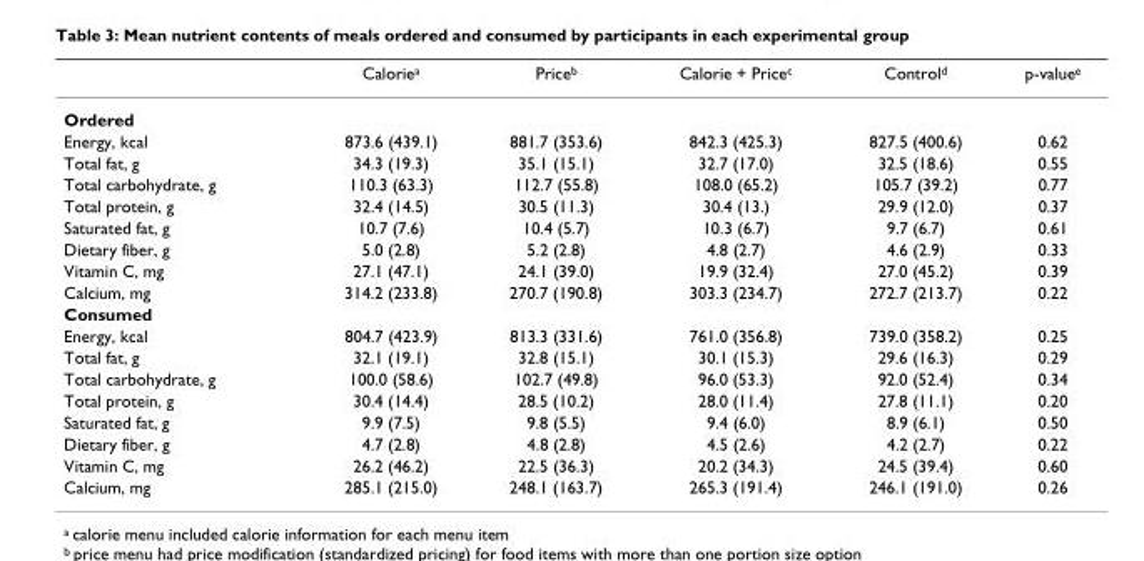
<table><thead><tr><td></td><td>Calorie<sup>a</sup></td><td>Price<sup>b</sup></td><td>Calorie + Price<sup>c</sup></td><td>Control<sup>d</sup></td><td>p-value<sup>e</sup></td></tr></thead><tbody><tr><td colspan="6">Ordered</td></tr><tr><td>Energy, kcal</td><td>873.6 (439.1)</td><td>881.7 (353.6)</td><td>842.3 (425.3)</td><td>827.5 (400.6)</td><td>0.62</td></tr><tr><td>Total fat, g</td><td>34.3 (19.3)</td><td>35.1 (15.1)</td><td>32.7 (17.0)</td><td>32.5 (18.6)</td><td>0.55</td></tr><tr><td>Total carbohydrate, g</td><td>110.3 (63.3)</td><td>112.7 (55.8)</td><td>108.0 (65.2)</td><td>105.7 (39.2)</td><td>0.77</td></tr><tr><td>Total protein, g</td><td>32.4 (14.5)</td><td>30.5 (11.3)</td><td>30.4 (13.)</td><td>29.9 (12.0)</td><td>0.37</td></tr><tr><td>Saturated fat, g</td><td>10.7 (7.6)</td><td>10.4 (5.7)</td><td>10.3 (6.7)</td><td>9.7 (6.7)</td><td>0.61</td></tr><tr><td>Dietary fiber, g</td><td>5.0 (2.8)</td><td>5.2 (2.8)</td><td>4.8 (2.7)</td><td>4.6 (2.9)</td><td>0.33</td></tr><tr><td>Vitamin C, mg</td><td>27.1 (47.1)</td><td>24.1 (39.0)</td><td>19.9 (32.4)</td><td>27.0 (45.2)</td><td>0.39</td></tr><tr><td>Calcium, mg</td><td>314.2 (233.8)</td><td>270.7 (190.8)</td><td>303.3 (234.7)</td><td>272.7 (213.7)</td><td>0.22</td></tr><tr><td colspan="6">Consumed</td></tr><tr><td>Energy, kcal</td><td>804.7 (423.9)</td><td>813.3 (331.6)</td><td>761.0 (356.8)</td><td>739.0 (358.2)</td><td>0.25</td></tr><tr><td>Total fat, g</td><td>32.1 (19.1)</td><td>32.8 (15.1)</td><td>30.1 (15.3)</td><td>29.6 (16.3)</td><td>0.29</td></tr><tr><td>Total carbohydrate, g</td><td>100.0 (58.6)</td><td>102.7 (49.8)</td><td>96.0 (53.3)</td><td>92.0 (52.4)</td><td>0.34</td></tr><tr><td>Total protein, g</td><td>30.4 (14.4)</td><td>28.5 (10.2)</td><td>28.0 (11.4)</td><td>27.8 (11.1)</td><td>0.20</td></tr><tr><td>Saturated fat, g</td><td>9.9 (7.5)</td><td>9.8 (5.5)</td><td>9.4 (6.0)</td><td>8.9 (6.1)</td><td>0.50</td></tr><tr><td>Dietary fiber, g</td><td>4.7 (2.8)</td><td>4.8 (2.8)</td><td>4.5 (2.6)</td><td>4.2 (2.7)</td><td>0.22</td></tr><tr><td>Vitamin C, mg</td><td>26.2 (46.2)</td><td>22.5 (36.3)</td><td>20.2 (34.3)</td><td>24.5 (39.4)</td><td>0.60</td></tr><tr><td>Calcium, mg</td><td>285.1 (215.0)</td><td>248.1 (163.7)</td><td>265.3 (191.4)</td><td>246.1 (191.0)</td><td>0.26</td></tr></tbody></table>